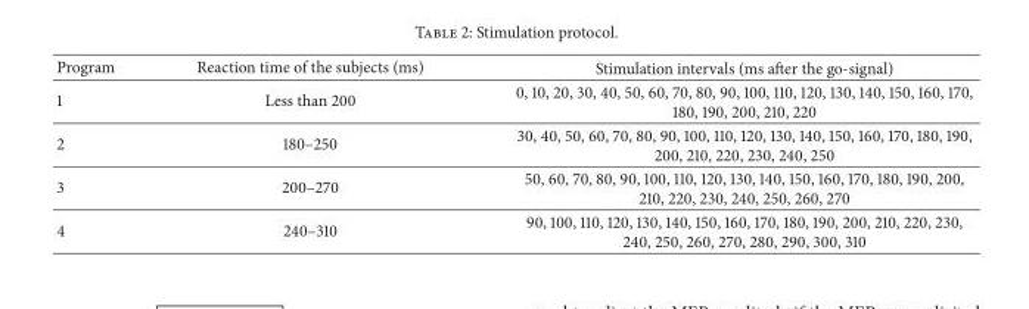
<table><thead><tr><td>Program</td><td>Reaction time of the subjects (ms)</td><td>Stimulation intervals (ms after the go-signal)</td></tr></thead><tbody><tr><td>1</td><td>Less than 200</td><td>0, 10, 20, 30, 40, 50, 60, 70, 80, 90, 100, 110, 120, 130, 140, 150, 160, 170, 180, 190, 200, 210, 220</td></tr><tr><td>2</td><td>180–250</td><td>30, 40, 50, 60, 70, 80, 90, 100, 110, 120, 130, 140, 150, 160, 170, 180, 190, 200, 210, 220, 230, 240, 250</td></tr><tr><td>3</td><td>200–270</td><td>50, 60, 70, 80, 90, 100, 110, 120, 130, 140, 150, 160, 170, 180, 190, 200, 210, 220, 230, 240, 250, 260, 270</td></tr><tr><td>4</td><td>240–310</td><td>90, 100, 110, 120, 130, 140, 150, 160, 170, 180, 190, 200, 210, 220, 230, 240, 250, 260, 270, 280, 290, 300, 310</td></tr></tbody></table>